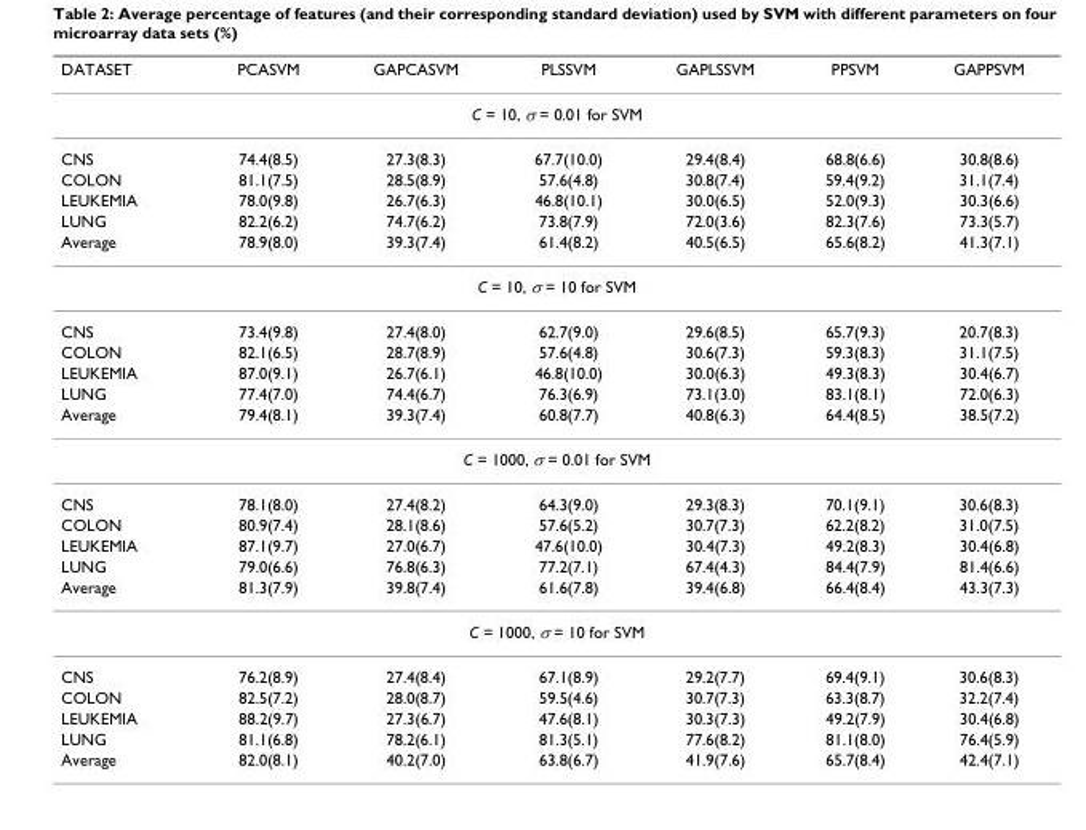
<table><thead><tr><td>DATASET</td><td>PCASVM</td><td>GAPCASVM</td><td>PLSSVM</td><td>GAPLSSVM</td><td>PPSVM</td><td>GAPPSVM</td></tr></thead><tbody><tr><td colspan="7">C = 10, σ = 0.01 for SVM</td></tr><tr><td>CNS</td><td>74.4(8.5)</td><td>27.3(8.3)</td><td>67.7(10.0)</td><td>29.4(8.4)</td><td>68.8(6.6)</td><td>30.8(8.6)</td></tr><tr><td>COLON</td><td>81.1(7.5)</td><td>28.5(8.9)</td><td>57.6(4.8)</td><td>30.8(7.4)</td><td>59.4(9.2)</td><td>31.1(7.4)</td></tr><tr><td>LEUKEMIA</td><td>78.0(9.8)</td><td>26.7(6.3)</td><td>46.8(10.1)</td><td>30.0(6.5)</td><td>52.0(9.3)</td><td>30.3(6.6)</td></tr><tr><td>LUNG</td><td>82.2(6.2)</td><td>74.7(6.2)</td><td>73.8(7.9)</td><td>72.0(3.6)</td><td>82.3(7.6)</td><td>73.3(5.7)</td></tr><tr><td>Average</td><td>78.9(8.0)</td><td>39.3(7.4)</td><td>61.4(8.2)</td><td>40.5(6.5)</td><td>65.6(8.2)</td><td>41.3(7.1)</td></tr><tr><td colspan="7">C = 10, σ = 10 for SVM</td></tr><tr><td>CNS</td><td>73.4(9.8)</td><td>27.4(8.0)</td><td>62.7(9.0)</td><td>29.6(8.5)</td><td>65.7(9.3)</td><td>20.7(8.3)</td></tr><tr><td>COLON</td><td>82.1(6.5)</td><td>28.7(8.9)</td><td>57.6(4.8)</td><td>30.6(7.3)</td><td>59.3(8.3)</td><td>31.1(7.5)</td></tr><tr><td>LEUKEMIA</td><td>87.0(9.1)</td><td>26.7(6.1)</td><td>46.8(10.0)</td><td>30.0(6.3)</td><td>49.3(8.3)</td><td>30.4(6.7)</td></tr><tr><td>LUNG</td><td>77.4(7.0)</td><td>74.4(6.7)</td><td>76.3(6.9)</td><td>73.1(3.0)</td><td>83.1(8.1)</td><td>72.0(6.3)</td></tr><tr><td>Average</td><td>79.4(8.1)</td><td>39.3(7.4)</td><td>60.8(7.7)</td><td>40.8(6.3)</td><td>64.4(8.5)</td><td>38.5(7.2)</td></tr><tr><td colspan="7">C = 1000, σ = 0.01 for SVM</td></tr><tr><td>CNS</td><td>78.1(8.0)</td><td>27.4(8.2)</td><td>64.3(9.0)</td><td>29.3(8.3)</td><td>70.1(9.1)</td><td>30.6(8.3)</td></tr><tr><td>COLON</td><td>80.9(7.4)</td><td>28.1(8.6)</td><td>57.6(5.2)</td><td>30.7(7.3)</td><td>62.2(8.2)</td><td>31.0(7.5)</td></tr><tr><td>LEUKEMIA</td><td>87.1(9.7)</td><td>27.0(6.7)</td><td>47.6(10.0)</td><td>30.4(7.3)</td><td>49.2(8.3)</td><td>30.4(6.8)</td></tr><tr><td>LUNG</td><td>79.0(6.6)</td><td>76.8(6.3)</td><td>77.2(7.1)</td><td>67.4(4.3)</td><td>84.4(7.9)</td><td>81.4(6.6)</td></tr><tr><td>Average</td><td>81.3(7.9)</td><td>39.8(7.4)</td><td>61.6(7.8)</td><td>39.4(6.8)</td><td>66.4(8.4)</td><td>43.3(7.3)</td></tr><tr><td colspan="7">C = 1000, σ = 10 for SVM</td></tr><tr><td>CNS</td><td>76.2(8.9)</td><td>27.4(8.4)</td><td>67.1(8.9)</td><td>29.2(7.7)</td><td>69.4(9.1)</td><td>30.6(8.3)</td></tr><tr><td>COLON</td><td>82.5(7.2)</td><td>28.0(8.7)</td><td>59.5(4.6)</td><td>30.7(7.3)</td><td>63.3(8.7)</td><td>32.2(7.4)</td></tr><tr><td>LEUKEMIA</td><td>88.2(9.7)</td><td>27.3(6.7)</td><td>47.6(8.1)</td><td>30.3(7.3)</td><td>49.2(7.9)</td><td>30.4(6.8)</td></tr><tr><td>LUNG</td><td>81.1(6.8)</td><td>78.2(6.1)</td><td>81.3(5.1)</td><td>77.6(8.2)</td><td>81.1(8.0)</td><td>76.4(5.9)</td></tr><tr><td>Average</td><td>82.0(8.1)</td><td>40.2(7.0)</td><td>63.8(6.7)</td><td>41.9(7.6)</td><td>65.7(8.4)</td><td>42.4(7.1)</td></tr></tbody></table>